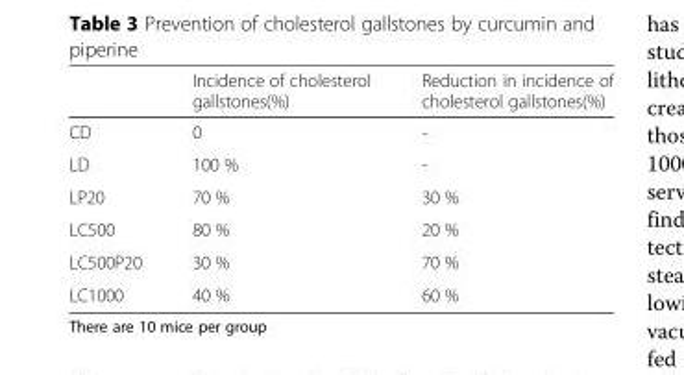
<table><thead><tr><td></td><td>Incidence of cholesterol gallstones(%)</td><td>Reduction in incidence of cholesterol gallstones(%)</td></tr></thead><tbody><tr><td>CD</td><td>0</td><td>-</td></tr><tr><td>LD</td><td>100 %</td><td>-</td></tr><tr><td>LP20</td><td>70 %</td><td>30 %</td></tr><tr><td>LC500</td><td>80 %</td><td>20 %</td></tr><tr><td>LC500P20</td><td>30 %</td><td>70 %</td></tr><tr><td>LC1000</td><td>40 %</td><td>60 %</td></tr></tbody></table>